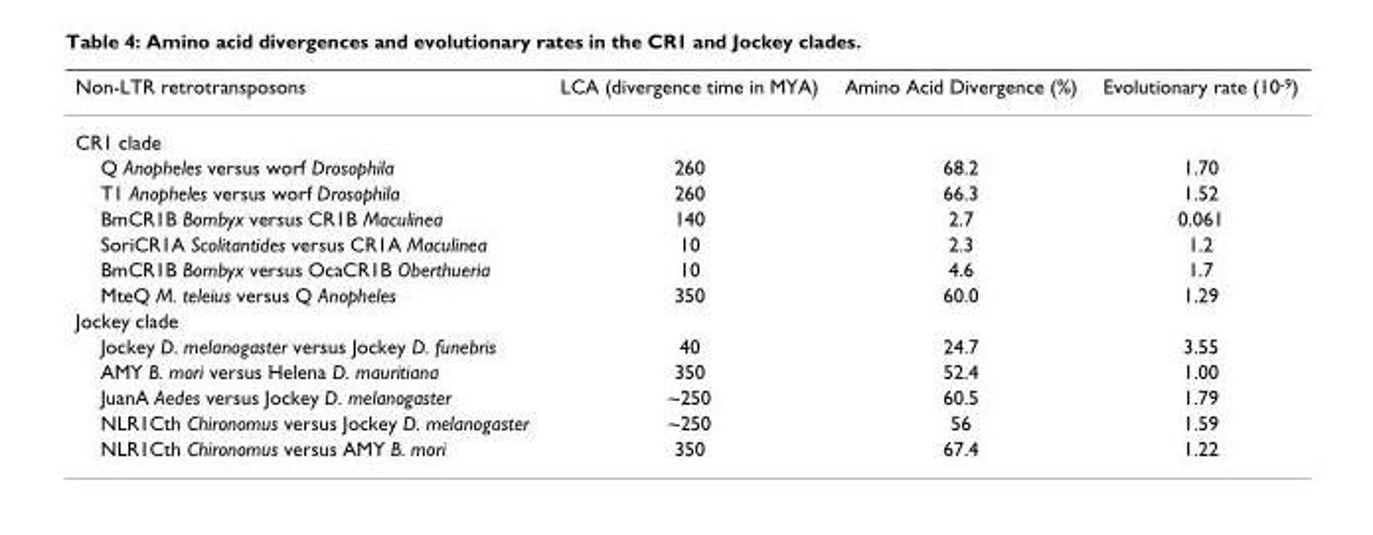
<table><thead><tr><td>Non-LTR retrotransposons</td><td>LCA (divergence time in MYA)</td><td>Amino Acid Divergence (%)</td><td>Evolutionary rate (10<sup>-9</sup>)</td></tr></thead><tbody><tr><td colspan="4">CR1 clade</td></tr><tr><td>Q Anopheles versus worf Drosophila</td><td>260</td><td>68.2</td><td>1.70</td></tr><tr><td>T1 Anopheles versus worf Drosophila</td><td>260</td><td>66.3</td><td>1.52</td></tr><tr><td>BmCR1B Bombyx versus CR1B Maculinea</td><td>140</td><td>2.7</td><td>0.061</td></tr><tr><td>SoriCR1A Scolitantides versus CR1A Maculinea</td><td>10</td><td>2.3</td><td>1.2</td></tr><tr><td>BmCR1B Bombyx versus OcaCR1B Oberthueria</td><td>10</td><td>4.6</td><td>1.7</td></tr><tr><td>MteQ M. teleius versus Q Anopheles</td><td>350</td><td>60.0</td><td>1.29</td></tr><tr><td colspan="4">Jockey clade</td></tr><tr><td>Jockey D. melanogaster versus Jockey D. funebris</td><td>40</td><td>24.7</td><td>3.55</td></tr><tr><td>AMY B. mori versus Helena D. mauritiana</td><td>350</td><td>52.4</td><td>1.00</td></tr><tr><td>JuanA Aedes versus Jockey D. melanogaster</td><td>~250</td><td>60.5</td><td>1.79</td></tr><tr><td>NLR1Cth Chironomus versus Jockey D. melanogaster</td><td>~250</td><td>56</td><td>1.59</td></tr><tr><td>NLR1Cth Chironomus versus AMY B. mori</td><td>350</td><td>67.4</td><td>1.22</td></tr></tbody></table>